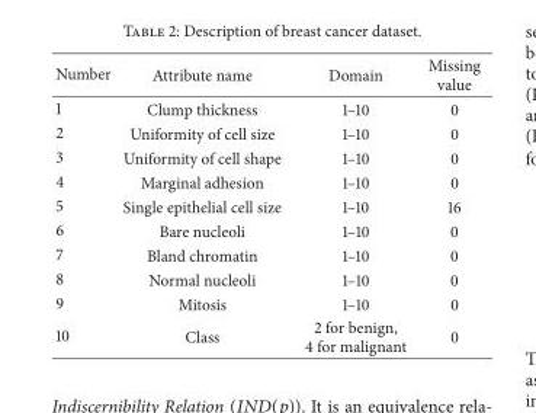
<table><thead><tr><td>Number</td><td>Attribute name</td><td>Domain</td><td>Missing value</td></tr></thead><tbody><tr><td>1</td><td>Clump thickness</td><td>1–10</td><td>0</td></tr><tr><td>2</td><td>Uniformity of cell size</td><td>1–10</td><td>0</td></tr><tr><td>3</td><td>Uniformity of cell shape</td><td>1–10</td><td>0</td></tr><tr><td>4</td><td>Marginal adhesion</td><td>1–10</td><td>0</td></tr><tr><td>5</td><td>Single epithelial cell size</td><td>1–10</td><td>16</td></tr><tr><td>6</td><td>Bare nucleoli</td><td>1–10</td><td>0</td></tr><tr><td>7</td><td>Bland chromatin</td><td>1–10</td><td>0</td></tr><tr><td>8</td><td>Normal nucleoli</td><td>1–10</td><td>0</td></tr><tr><td>9</td><td>Mitosis</td><td>1–10</td><td>0</td></tr><tr><td>10</td><td>Class</td><td>2 for benign, 4 for malignant</td><td>0</td></tr></tbody></table>